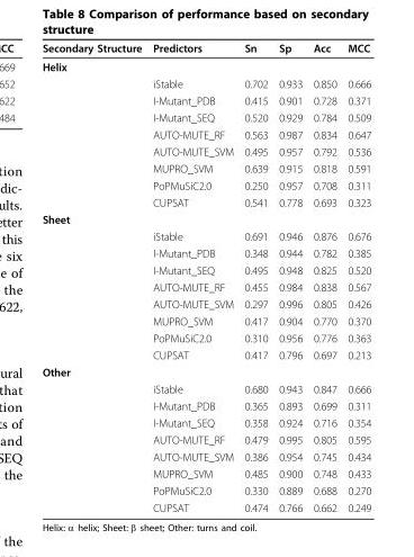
<table><thead><tr><td>Secondary Structure</td><td>Predictors</td><td>Sn</td><td>Sp</td><td>Acc</td><td>MCC</td></tr></thead><tbody><tr><td colspan="6">Helix</td></tr><tr><td></td><td>iStable</td><td>0.702</td><td>0.933</td><td>0.850</td><td>0.666</td></tr><tr><td></td><td>I-Mutant_PDB</td><td>0.415</td><td>0.901</td><td>0.728</td><td>0.371</td></tr><tr><td></td><td>I-Mutant_SEQ</td><td>0.520</td><td>0.929</td><td>0.784</td><td>0.509</td></tr><tr><td></td><td>AUTO-MUTE_RF</td><td>0.563</td><td>0.987</td><td>0.834</td><td>0.647</td></tr><tr><td></td><td>AUTO-MUTE_SVM</td><td>0.495</td><td>0.957</td><td>0.792</td><td>0.536</td></tr><tr><td></td><td>MUPRO_SVM</td><td>0.639</td><td>0.915</td><td>0.818</td><td>0.591</td></tr><tr><td></td><td>PoPMuSiC2.0</td><td>0.250</td><td>0.957</td><td>0.708</td><td>0.311</td></tr><tr><td></td><td>CUPSAT</td><td>0.541</td><td>0.778</td><td>0.693</td><td>0.323</td></tr><tr><td colspan="6">Sheet</td></tr><tr><td></td><td>iStable</td><td>0.691</td><td>0.946</td><td>0.876</td><td>0.676</td></tr><tr><td></td><td>I-Mutant_PDB</td><td>0.348</td><td>0.944</td><td>0.782</td><td>0.385</td></tr><tr><td></td><td>I-Mutant_SEQ</td><td>0.495</td><td>0.948</td><td>0.825</td><td>0.520</td></tr><tr><td></td><td>AUTO-MUTE_RF</td><td>0.455</td><td>0.984</td><td>0.838</td><td>0.567</td></tr><tr><td></td><td>AUTO-MUTE_SVM</td><td>0.297</td><td>0.996</td><td>0.805</td><td>0.426</td></tr><tr><td></td><td>MUPRO_SVM</td><td>0.417</td><td>0.904</td><td>0.770</td><td>0.370</td></tr><tr><td></td><td>PoPMuSiC2.0</td><td>0.310</td><td>0.956</td><td>0.776</td><td>0.363</td></tr><tr><td></td><td>CUPSAT</td><td>0.417</td><td>0.796</td><td>0.697</td><td>0.213</td></tr><tr><td colspan="6">Other</td></tr><tr><td></td><td>iStable</td><td>0.680</td><td>0.943</td><td>0.847</td><td>0.666</td></tr><tr><td></td><td>I-Mutant_PDB</td><td>0.365</td><td>0.893</td><td>0.699</td><td>0.311</td></tr><tr><td></td><td>I-Mutant_SEQ</td><td>0.358</td><td>0.924</td><td>0.716</td><td>0.354</td></tr><tr><td></td><td>AUTO-MUTE_RF</td><td>0.479</td><td>0.995</td><td>0.805</td><td>0.595</td></tr><tr><td></td><td>AUTO-MUTE_SVM</td><td>0.386</td><td>0.954</td><td>0.745</td><td>0.434</td></tr><tr><td></td><td>MUPRO_SVM</td><td>0.485</td><td>0.900</td><td>0.748</td><td>0.433</td></tr><tr><td></td><td>PoPMuSiC2.0</td><td>0.330</td><td>0.889</td><td>0.688</td><td>0.270</td></tr><tr><td></td><td>CUPSAT</td><td>0.474</td><td>0.766</td><td>0.662</td><td>0.249</td></tr></tbody></table>